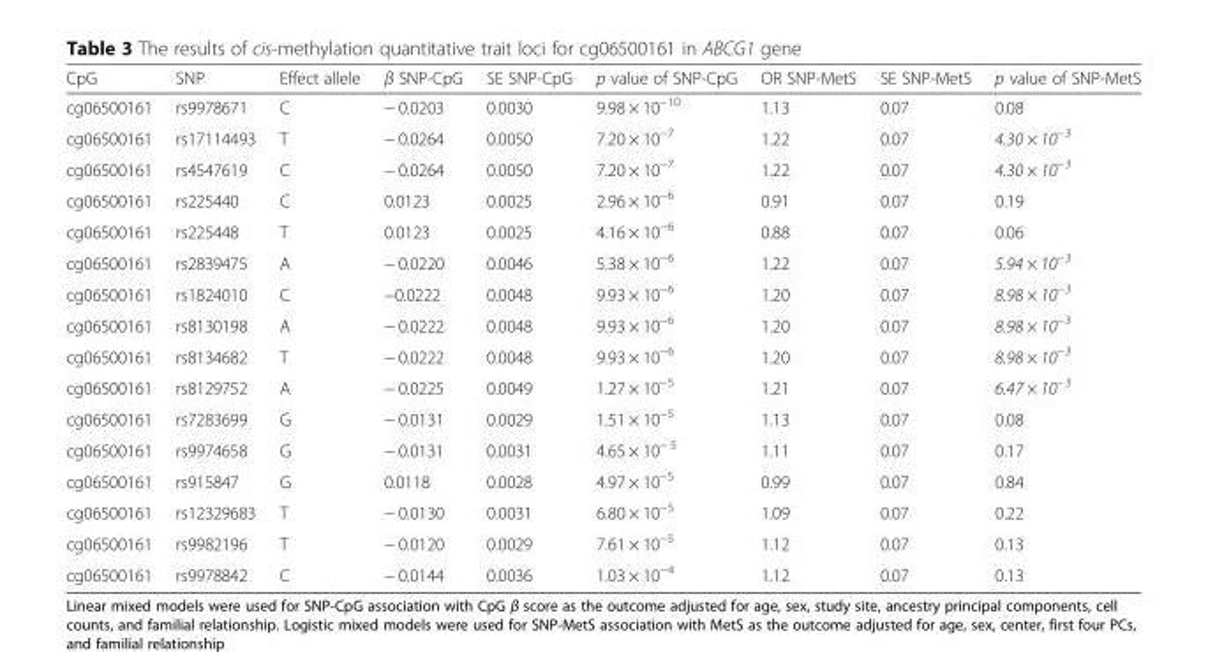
<table><thead><tr><td>CpG</td><td>SNP</td><td>Effect allele</td><td>β SNP-CpG</td><td>SE SNP-CpG</td><td>p value of SNP-CpG</td><td>OR SNP-MetS</td><td>SE SNP-MetS</td><td>p value of SNP-MetS</td></tr></thead><tbody><tr><td>cg06500161</td><td>rs9978671</td><td>C</td><td>− 0.0203</td><td>0.0030</td><td>9.98 × 10<sup>−10</sup></td><td>1.13</td><td>0.07</td><td>0.08</td></tr><tr><td>cg06500161</td><td>rs17114493</td><td>T</td><td>− 0.0264</td><td>0.0050</td><td>7.20 × 10<sup>−7</sup></td><td>1.22</td><td>0.07</td><td>4.30 × 10<sup>−3</sup></td></tr><tr><td>cg06500161</td><td>rs4547619</td><td>C</td><td>− 0.0264</td><td>0.0050</td><td>7.20 × 10<sup>−7</sup></td><td>1.22</td><td>0.07</td><td>4.30 × 10<sup>−3</sup></td></tr><tr><td>cg06500161</td><td>rs225440</td><td>C</td><td>0.0123</td><td>0.0025</td><td>2.96 × 10<sup>−6</sup></td><td>0.91</td><td>0.07</td><td>0.19</td></tr><tr><td>cg06500161</td><td>rs225448</td><td>T</td><td>0.0123</td><td>0.0025</td><td>4.16 × 10<sup>−6</sup></td><td>0.88</td><td>0.07</td><td>0.06</td></tr><tr><td>cg06500161</td><td>rs2839475</td><td>A</td><td>− 0.0220</td><td>0.0046</td><td>5.38 × 10<sup>−6</sup></td><td>1.22</td><td>0.07</td><td>5.94 × 10<sup>−3</sup></td></tr><tr><td>cg06500161</td><td>rs1824010</td><td>C</td><td>−0.0222</td><td>0.0048</td><td>9.93 × 10<sup>−6</sup></td><td>1.20</td><td>0.07</td><td>8.98 × 10<sup>−3</sup></td></tr><tr><td>cg06500161</td><td>rs8130198</td><td>A</td><td>− 0.0222</td><td>0.0048</td><td>9.93 × 10<sup>−6</sup></td><td>1.20</td><td>0.07</td><td>8.98 × 10<sup>−3</sup></td></tr><tr><td>cg06500161</td><td>rs8134682</td><td>T</td><td>− 0.0222</td><td>0.0048</td><td>9.93 × 10<sup>−6</sup></td><td>1.20</td><td>0.07</td><td>8.98 × 10<sup>−3</sup></td></tr><tr><td>cg06500161</td><td>rs8129752</td><td>A</td><td>− 0.0225</td><td>0.0049</td><td>1.27 × 10<sup>−5</sup></td><td>1.21</td><td>0.07</td><td>6.47 × 10<sup>−3</sup></td></tr><tr><td>cg06500161</td><td>rs7283699</td><td>G</td><td>− 0.0131</td><td>0.0029</td><td>1.51 × 10<sup>−5</sup></td><td>1.13</td><td>0.07</td><td>0.08</td></tr><tr><td>cg06500161</td><td>rs9974658</td><td>G</td><td>− 0.0131</td><td>0.0031</td><td>4.65 × 10<sup>− 5</sup></td><td>1.11</td><td>0.07</td><td>0.17</td></tr><tr><td>cg06500161</td><td>rs915847</td><td>G</td><td>0.0118</td><td>0.0028</td><td>4.97 × 10<sup>−5</sup></td><td>0.99</td><td>0.07</td><td>0.84</td></tr><tr><td>cg06500161</td><td>rs12329683</td><td>T</td><td>− 0.0130</td><td>0.0031</td><td>6.80 × 10<sup>−5</sup></td><td>1.09</td><td>0.07</td><td>0.22</td></tr><tr><td>cg06500161</td><td>rs9982196</td><td>T</td><td>− 0.0120</td><td>0.0029</td><td>7.61 × 10<sup>−5</sup></td><td>1.12</td><td>0.07</td><td>0.13</td></tr><tr><td>cg06500161</td><td>rs9978842</td><td>C</td><td>− 0.0144</td><td>0.0036</td><td>1.03 × 10<sup>−4</sup></td><td>1.12</td><td>0.07</td><td>0.13</td></tr></tbody></table>